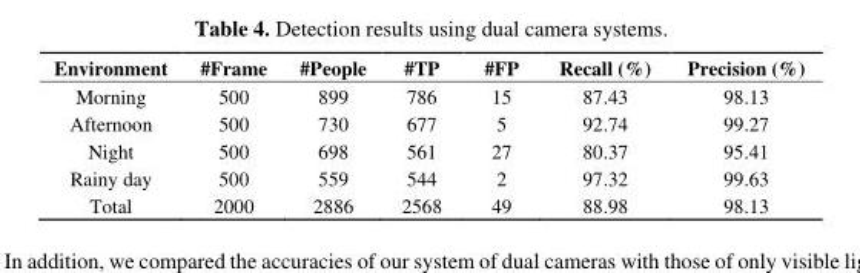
<table><thead><tr><td>Environment</td><td>#Frame</td><td>#People</td><td>#TP</td><td>#FP</td><td>Recall (%)</td><td>Precision (%)</td></tr></thead><tbody><tr><td>Morning</td><td>500</td><td>899</td><td>786</td><td>15</td><td>87.43</td><td>98.13</td></tr><tr><td>Afternoon</td><td>500</td><td>730</td><td>677</td><td>5</td><td>92.74</td><td>99.27</td></tr><tr><td>Night</td><td>500</td><td>698</td><td>561</td><td>27</td><td>80.37</td><td>95.41</td></tr><tr><td>Rainy day</td><td>500</td><td>559</td><td>544</td><td>2</td><td>97.32</td><td>99.63</td></tr><tr><td>Total</td><td>2000</td><td>2886</td><td>2568</td><td>49</td><td>88.98</td><td>98.13</td></tr></tbody></table>